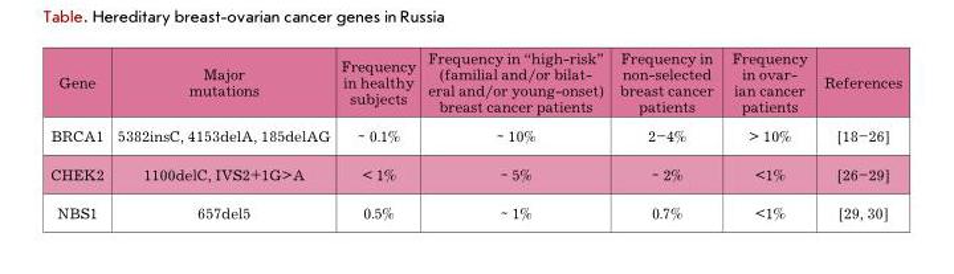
<table><thead><tr><td>Gene</td><td>Major mutations</td><td>Frequency in healthy subjects</td><td>Frequency in “high-risk” (familial and/or bilat- eral and/or young-onset) breast cancer patients</td><td>Frequency in non-selected breast cancer patients</td><td>Frequency in ovar- ian cancer patients</td><td>References</td></tr></thead><tbody><tr><td>BRCA1</td><td>5382insC, 4153delA, 185delAG</td><td>~ 0.1%</td><td>~ 10%</td><td>2–4%</td><td>&gt; 10%</td><td>[18–26]</td></tr><tr><td>CHEK2</td><td>1100delC, IVS2+1G&gt;A</td><td>&lt; 1%</td><td>~ 5%</td><td>~ 2%</td><td>&lt;1%</td><td>[26–29]</td></tr><tr><td>NBS1</td><td>657del5</td><td>0.5%</td><td>~ 1%</td><td>0.7%</td><td>&lt;1%</td><td>[29, 30]</td></tr></tbody></table>